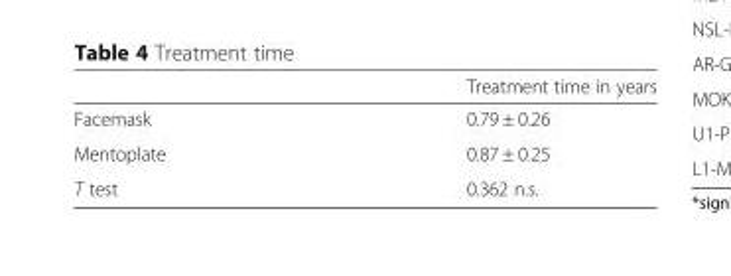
<table><thead><tr><td></td><td>Treatment time in years</td></tr></thead><tbody><tr><td>Facemask</td><td>0.79 ± 0.26</td></tr><tr><td>Mentoplate</td><td>0.87 ± 0.25</td></tr><tr><td>T test</td><td>0.362 n.s.</td></tr></tbody></table>